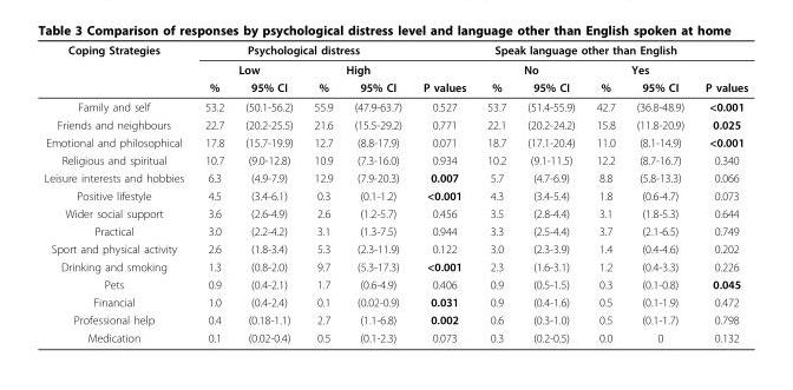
<table><thead><tr><td rowspan="3">Coping Strategies</td><td colspan="4">Psychological distress</td><td colspan="6">Speak language other than English</td></tr><tr><td colspan="2">Low</td><td colspan="2">High</td><td rowspan="2">P values</td><td colspan="2">No</td><td colspan="2">Yes</td><td rowspan="2">P values</td></tr><tr><td>%</td><td>95% CI</td><td>%</td><td>95% CI</td><td>%</td><td>95% CI</td><td>%</td><td>95% CI</td></tr></thead><tbody><tr><td>Family and self</td><td>53.2</td><td>(50.1-56.2)</td><td>55.9</td><td>(47.9-63.7)</td><td>0.527</td><td>53.7</td><td>(51.4-55.9)</td><td>42.7</td><td>(36.8-48.9)</td><td>&lt;0.001</td></tr><tr><td>Friends and neighbours</td><td>22.7</td><td>(20.2-25.5)</td><td>21.6</td><td>(15.5-29.2)</td><td>0.771</td><td>22.1</td><td>(20.2-24.2)</td><td>15.8</td><td>(11.8-20.9)</td><td>0.025</td></tr><tr><td>Emotional and philosophical</td><td>17.8</td><td>(15.7-19.9)</td><td>12.7</td><td>(8.8-17.9)</td><td>0.071</td><td>18.7</td><td>(17.1-20.4)</td><td>11.0</td><td>(8.1-14.9)</td><td>&lt;0.001</td></tr><tr><td>Religious and spiritual</td><td>10.7</td><td>(9.0-12.8)</td><td>10.9</td><td>(7.3-16.0)</td><td>0.934</td><td>10.2</td><td>(9.1-11.5)</td><td>12.2</td><td>(8.7-16.7)</td><td>0.340</td></tr><tr><td>Leisure interests and hobbies</td><td>6.3</td><td>(4.9-7.9)</td><td>12.9</td><td>(7.9-20.3)</td><td>0.007</td><td>5.7</td><td>(4.7-6.9)</td><td>8.8</td><td>(5.8-13.3)</td><td>0.066</td></tr><tr><td>Positive lifestyle</td><td>4.5</td><td>(3.4-6.1)</td><td>0.3</td><td>(0.1-1.2)</td><td>&lt;0.001</td><td>4.3</td><td>(3.4-5.4)</td><td>1.8</td><td>(0.6-4.7)</td><td>0.073</td></tr><tr><td>Wider social support</td><td>3.6</td><td>(2.6-4.9)</td><td>2.6</td><td>(1.2-5.7)</td><td>0.456</td><td>3.5</td><td>(2.8-4.4)</td><td>3.1</td><td>(1.8-5.3)</td><td>0.644</td></tr><tr><td>Practical</td><td>3.0</td><td>(2.2-4.2)</td><td>3.1</td><td>(1.3-7.5)</td><td>0.944</td><td>3.3</td><td>(2.5-4.4)</td><td>3.7</td><td>(2.1-6.5)</td><td>0.749</td></tr><tr><td>Sport and physical activity</td><td>2.6</td><td>(1.8-3.4)</td><td>5.3</td><td>(2.3-11.9)</td><td>0.122</td><td>3.0</td><td>(2.3-3.9)</td><td>1.4</td><td>(0.4-4.6)</td><td>0.202</td></tr><tr><td>Drinking and smoking</td><td>1.3</td><td>(0.8-2.0)</td><td>9.7</td><td>(5.3-17.3)</td><td>&lt;0.001</td><td>2.3</td><td>(1.6-3.1)</td><td>1.2</td><td>(0.4-3.3)</td><td>0.226</td></tr><tr><td>Pets</td><td>0.9</td><td>(0.4-2.1)</td><td>1.7</td><td>(0.6-4.9)</td><td>0.406</td><td>0.9</td><td>(0.5-1.5)</td><td>0.3</td><td>(0.1-0.8)</td><td>0.045</td></tr><tr><td>Financial</td><td>1.0</td><td>(0.4-2.4)</td><td>0.1</td><td>(0.02-0.9)</td><td>0.031</td><td>0.9</td><td>(0.4-1.6)</td><td>0.5</td><td>(0.1-1.9)</td><td>0.472</td></tr><tr><td>Professional help</td><td>0.4</td><td>(0.18-1.1)</td><td>2.7</td><td>(1.1-6.8)</td><td>0.002</td><td>0.6</td><td>(0.3-1.0)</td><td>0.5</td><td>(0.1-1.7)</td><td>0.798</td></tr><tr><td>Medication</td><td>0.1</td><td>(0.02-0.4)</td><td>0.5</td><td>(0.1-2.3)</td><td>0.073</td><td>0.3</td><td>(0.2-0.5)</td><td>0.0</td><td>0</td><td>0.132</td></tr></tbody></table>